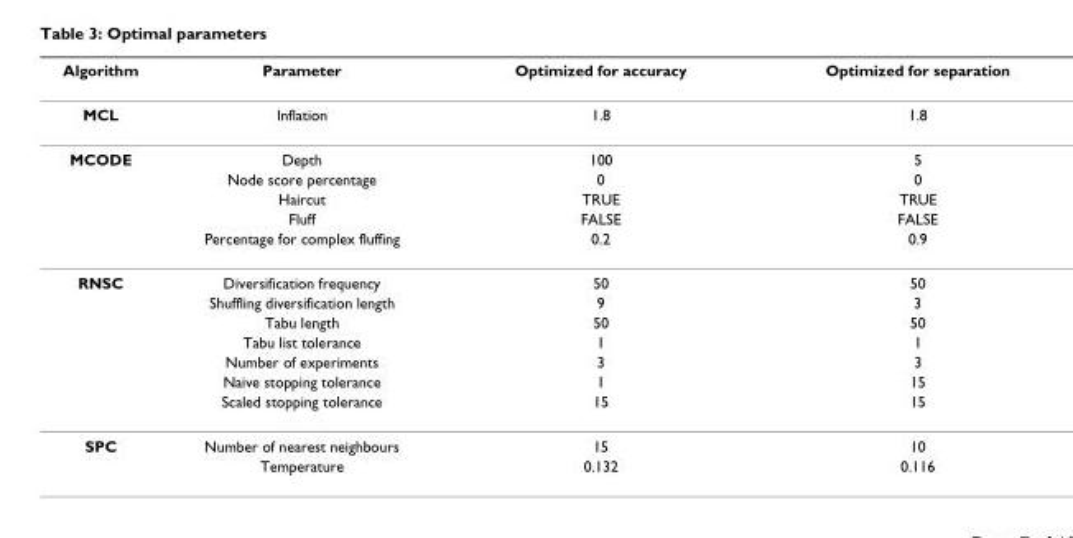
<table><thead><tr><td>Algorithm</td><td>Parameter</td><td>Optimized for accuracy</td><td>Optimized for separation</td></tr></thead><tbody><tr><td>MCL</td><td>Inflation</td><td>1.8</td><td>1.8</td></tr><tr><td rowspan="5">MCODE</td><td>Depth</td><td>100</td><td>5</td></tr><tr><td>Node score percentage</td><td>0</td><td>0</td></tr><tr><td>Haircut</td><td>TRUE</td><td>TRUE</td></tr><tr><td>Fluff</td><td>FALSE</td><td>FALSE</td></tr><tr><td>Percentage for complex fluffing</td><td>0.2</td><td>0.9</td></tr><tr><td rowspan="7">RNSC</td><td>Diversification frequency</td><td>50</td><td>50</td></tr><tr><td>Shuffling diversification length</td><td>9</td><td>3</td></tr><tr><td>Tabu length</td><td>50</td><td>50</td></tr><tr><td>Tabu list tolerance</td><td>1</td><td>1</td></tr><tr><td>Number of experiments</td><td>3</td><td>3</td></tr><tr><td>Naive stopping tolerance</td><td>1</td><td>15</td></tr><tr><td>Scaled stopping tolerance</td><td>15</td><td>15</td></tr><tr><td rowspan="2">SPC</td><td>Number of nearest neighbours</td><td>15</td><td>10</td></tr><tr><td>Temperature</td><td>0.132</td><td>0.116</td></tr></tbody></table>